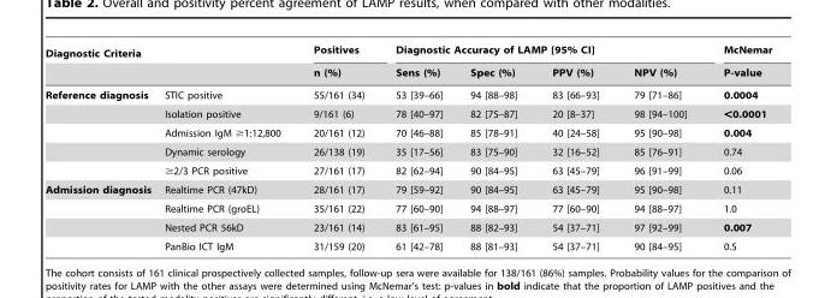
<table><thead><tr><td colspan="2">Diagnostic Criteria</td><td rowspan="2">Positives n (%)</td><td colspan="4">Diagnostic Accuracy of LAMP [95% CI]</td><td rowspan="2">McNemar P-value</td></tr><tr><td></td><td></td><td>Sens (%)</td><td>Spec (%)</td><td>PPV (%)</td><td>NPV (%)</td></tr></thead><tbody><tr><td rowspan="5">Reference diagnosis</td><td>STIC positive</td><td>55/161 (34)</td><td>53 [39–66]</td><td>94 [88–98]</td><td>83 [66–93]</td><td>79 [71–86]</td><td>0.0004</td></tr><tr><td>Isolation positive</td><td>9/161 (6)</td><td>78 [40–97]</td><td>82 [75–87]</td><td>20 [8–37]</td><td>98 [94–100]</td><td>&lt;0.0001</td></tr><tr><td>Admission IgM ≥1:12,800</td><td>20/161 (12)</td><td>70 [46–88]</td><td>85 [78–91]</td><td>40 [24–58]</td><td>95 [90–98]</td><td>0.004</td></tr><tr><td>Dynamic serology</td><td>26/138 (19)</td><td>35 [17–56]</td><td>83 [75–90]</td><td>32 [16–52]</td><td>85 [76–91]</td><td>0.74</td></tr><tr><td>≥2/3 PCR positive</td><td>27/161 (17)</td><td>82 [62–94]</td><td>90 [84–95]</td><td>63 [45–79]</td><td>96 [91–99]</td><td>0.06</td></tr><tr><td rowspan="4">Admission diagnosis</td><td>Realtime PCR (47kD)</td><td>28/161 (17)</td><td>79 [59–92]</td><td>90 [84–95]</td><td>63 [45–79]</td><td>95 [90–98]</td><td>0.11</td></tr><tr><td>Realtime PCR (groEL)</td><td>35/161 (22)</td><td>77 [60–90]</td><td>94 [88–97]</td><td>77 [60–90]</td><td>94 [88–97]</td><td>1.0</td></tr><tr><td>Nested PCR 56kD</td><td>23/161 (14)</td><td>83 [61–95]</td><td>88 [82–93]</td><td>54 [37–71]</td><td>97 [92–99]</td><td>0.007</td></tr><tr><td>PanBio ICT IgM</td><td>31/159 (20)</td><td>61 [42–78]</td><td>88 [81–93]</td><td>54 [37–71]</td><td>90 [84–95]</td><td>0.5</td></tr></tbody></table>